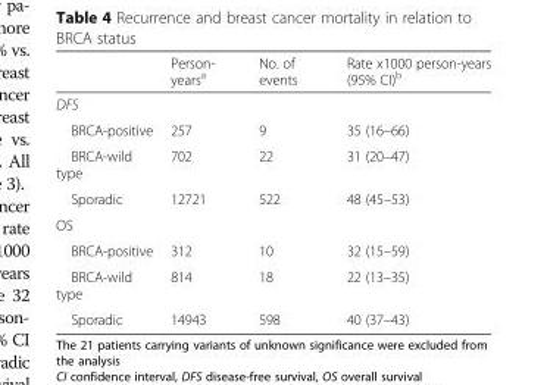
<table><thead><tr><td></td><td>Person- years<sup>a</sup></td><td>No. of events</td><td>Rate x1000 person-years (95% CI)<sup>b</sup></td></tr></thead><tbody><tr><td colspan="4">DFS</td></tr><tr><td>BRCA-positive</td><td>257</td><td>9</td><td>35 (16–66)</td></tr><tr><td>BRCA-wild type</td><td>702</td><td>22</td><td>31 (20–47)</td></tr><tr><td>Sporadic</td><td>12721</td><td>522</td><td>48 (45–53)</td></tr><tr><td colspan="4">OS</td></tr><tr><td>BRCA-positive</td><td>312</td><td>10</td><td>32 (15–59)</td></tr><tr><td>BRCA-wild type</td><td>814</td><td>18</td><td>22 (13–35)</td></tr><tr><td>Sporadic</td><td>14943</td><td>598</td><td>40 (37–43)</td></tr></tbody></table>